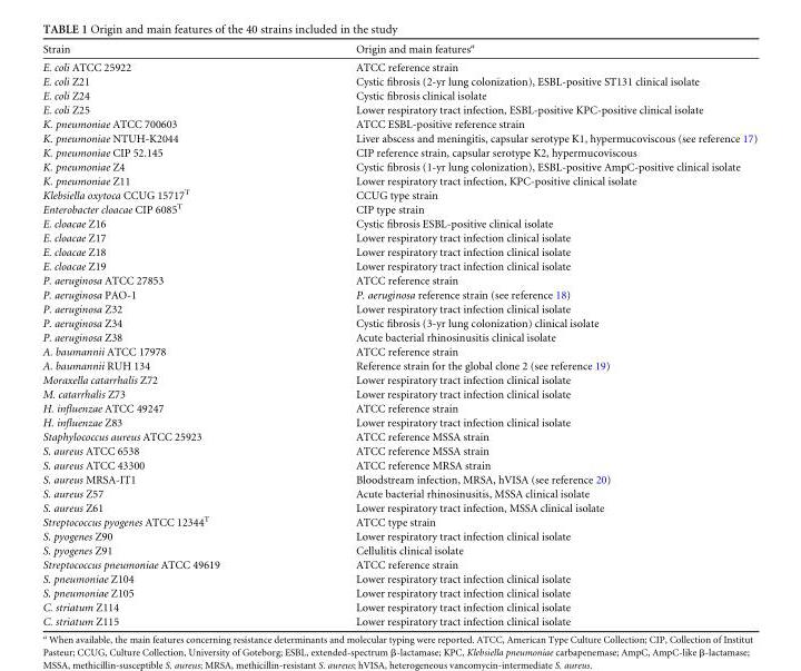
<table><thead><tr><td>Strain</td><td>Origin and main features<sup>a</sup></td></tr></thead><tbody><tr><td>E. coli ATCC 25922</td><td>ATCC reference strain</td></tr><tr><td>E. coli Z21</td><td>Cystic fibrosis (2-yr lung colonization), ESBL-positive ST131 clinical isolate</td></tr><tr><td>E. coli Z24</td><td>Cystic fibrosis clinical isolate</td></tr><tr><td>E. coli Z25</td><td>Lower respiratory tract infection, ESBL-positive KPC-positive clinical isolate</td></tr><tr><td>K. pneumoniae ATCC 700603</td><td>ATCC ESBL-positive reference strain</td></tr><tr><td>K. pneumoniae NTUH-K2044</td><td>Liver abscess and meningitis, capsular serotype K1, hypermucoviscous (see reference 17)</td></tr><tr><td>K. pneumoniae CIP 52.145</td><td>CIP reference strain, capsular serotype K2, hypermucoviscous</td></tr><tr><td>K. pneumoniae Z4</td><td>Cystic fibrosis (1-yr lung colonization), ESBL-positive AmpC-positive clinical isolate</td></tr><tr><td>K. pneumoniae Z11</td><td>Lower respiratory tract infection, KPC-positive clinical isolate</td></tr><tr><td>Klebsiella oxytoca CCUG 15717<sup>T</sup></td><td>CCUG type strain</td></tr><tr><td>Enterobacter cloacae CIP 6085<sup>T</sup></td><td>CIP type strain</td></tr><tr><td>E. cloacae Z16</td><td>Cystic fibrosis ESBL-positive clinical isolate</td></tr><tr><td>E. cloacae Z17</td><td>Lower respiratory tract infection clinical isolate</td></tr><tr><td>E. cloacae Z18</td><td>Lower respiratory tract infection clinical isolate</td></tr><tr><td>E. cloacae Z19</td><td>Lower respiratory tract infection clinical isolate</td></tr><tr><td>P. aeruginosa ATCC 27853</td><td>ATCC reference strain</td></tr><tr><td>P. aeruginosa PAO-1</td><td>P. aeruginosa reference strain (see reference 18)</td></tr><tr><td>P. aeruginosa Z32</td><td>Lower respiratory tract infection clinical isolate</td></tr><tr><td>P. aeruginosa Z34</td><td>Cystic fibrosis (3-yr lung colonization) clinical isolate</td></tr><tr><td>P. aeruginosa Z38</td><td>Acute bacterial rhinosinusitis clinical isolate</td></tr><tr><td>A. baumannii ATCC 17978</td><td>ATCC reference strain</td></tr><tr><td>A. baumannii RUH 134</td><td>Reference strain for the global clone 2 (see reference 19)</td></tr><tr><td>Moraxella catarrhalis Z72</td><td>Lower respiratory tract infection clinical isolate</td></tr><tr><td>M. catarrhalis Z73</td><td>Lower respiratory tract infection clinical isolate</td></tr><tr><td>H. influenzae ATCC 49247</td><td>ATCC reference strain</td></tr><tr><td>H. influenzae Z83</td><td>Lower respiratory tract infection clinical isolate</td></tr><tr><td>Staphylococcus aureus ATCC 25923</td><td>ATCC reference MSSA strain</td></tr><tr><td>S. aureus ATCC 6538</td><td>ATCC reference MSSA strain</td></tr><tr><td>S. aureus ATCC 43300</td><td>ATCC reference MRSA strain</td></tr><tr><td>S. aureus MRSA-IT1</td><td>Bloodstream infection, MRSA, hVISA (see reference 20)</td></tr><tr><td>S. aureus Z57</td><td>Acute bacterial rhinosinusitis, MSSA clinical isolate</td></tr><tr><td>S. aureus Z61</td><td>Lower respiratory tract infection, MSSA clinical isolate</td></tr><tr><td>Streptococcus pyogenes ATCC 12344<sup>T</sup></td><td>ATCC type strain</td></tr><tr><td>S. pyogenes Z90</td><td>Lower respiratory tract infection clinical isolate</td></tr><tr><td>S. pyogenes Z91</td><td>Cellulitis clinical isolate</td></tr><tr><td>Streptococcus pneumoniae ATCC 49619</td><td>ATCC reference strain</td></tr><tr><td>S. pneumoniae Z104</td><td>Lower respiratory tract infection clinical isolate</td></tr><tr><td>S. pneumoniae Z105</td><td>Lower respiratory tract infection clinical isolate</td></tr><tr><td>C. striatum Z114</td><td>Lower respiratory tract infection clinical isolate</td></tr><tr><td>C. striatum Z115</td><td>Lower respiratory tract infection clinical isolate</td></tr></tbody></table>